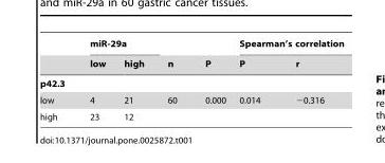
<table><thead><tr><td rowspan="2"></td><td colspan="2">miR-29a</td><td rowspan="2">n</td><td rowspan="2">P</td><td colspan="2">Spearman’s correlation</td></tr><tr><td>low</td><td>high</td><td>P</td><td>r</td></tr></thead><tbody><tr><td colspan="7">p42.3</td></tr><tr><td>low</td><td>4</td><td>21</td><td>60</td><td>0.000</td><td>0.014</td><td>−0.316</td></tr><tr><td>high</td><td>23</td><td>12</td><td></td><td></td><td></td><td></td></tr></tbody></table>